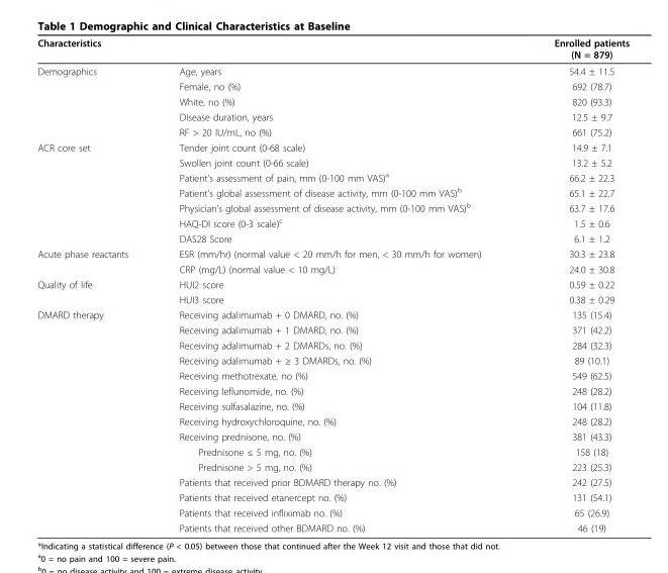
<table><thead><tr><td colspan="2">Characteristics</td><td rowspan="2">Enrolled patients (N = 879) 54.4 ± 11.5</td></tr><tr><td>Demographics</td><td>Age, years</td></tr></thead><tbody><tr><td></td><td>Female, no (%)</td><td>692 (78.7)</td></tr><tr><td></td><td>White, no (%)</td><td>820 (93.3)</td></tr><tr><td></td><td>Disease duration, years</td><td>12.5 ± 9.7</td></tr><tr><td></td><td>RF &gt; 20 IU/mL, no (%)</td><td>661 (75.2)</td></tr><tr><td rowspan="7">ACR core set</td><td>Tender joint count (0-68 scale)</td><td>14.9 ± 7.1</td></tr><tr><td>Swollen joint count (0-66 scale)</td><td>13.2 ± 5.2</td></tr><tr><td>Patient’s assessment of pain, mm (0-100 mm VAS)<sup>a</sup></td><td>66.2 ± 22.3</td></tr><tr><td>Patient’s global assessment of disease activity, mm (0-100 mm VAS)<sup>b</sup></td><td>65.1 ± 22.7</td></tr><tr><td>Physician’s global assessment of disease activity, mm (0-100 mm VAS)<sup>b</sup></td><td>63.7 ± 17.6</td></tr><tr><td>HAQ-DI score (0-3 scale)<sup>c</sup></td><td>1.5 ± 0.6</td></tr><tr><td>DAS28 Score</td><td>6.1 ± 1.2</td></tr><tr><td rowspan="2">Acute phase reactants</td><td>ESR (mm/hr) (normal value &lt; 20 mm/h for men, &lt; 30 mm/h for women)</td><td>30.3 ± 23.8</td></tr><tr><td>CRP (mg/L) (normal value &lt; 10 mg/L)</td><td>24.0 ± 30.8</td></tr><tr><td rowspan="2">Quality of life</td><td>HUI2 score</td><td>0.59 ± 0.22</td></tr><tr><td>HUI3 score</td><td>0.38 ± 0.29</td></tr><tr><td rowspan="15">DMARD therapy</td><td>Receiving adalimumab + 0 DMARD, no. (%)</td><td>135 (15.4)</td></tr><tr><td>Receiving adalimumab + 1 DMARD, no. (%)</td><td>371 (42.2)</td></tr><tr><td>Receiving adalimumab + 2 DMARDs, no. (%)</td><td>284 (32.3)</td></tr><tr><td>Receiving adalimumab + ≥ 3 DMARDs, no. (%)</td><td>89 (10.1)</td></tr><tr><td>Receiving methotrexate, no (%)</td><td>549 (62.5)</td></tr><tr><td>Receiving leflunomide, no. (%)</td><td>248 (28.2)</td></tr><tr><td>Receiving sulfasalazine, no. (%)</td><td>104 (11.8)</td></tr><tr><td>Receiving hydroxychloroquine, no. (%)</td><td>248 (28.2)</td></tr><tr><td>Receiving prednisone, no. (%)</td><td>381 (43.3)</td></tr><tr><td>Prednisone ≤ 5 mg, no. (%)</td><td>158 (18)</td></tr><tr><td>Prednisone &gt; 5 mg, no. (%)</td><td>223 (25.3)</td></tr><tr><td>Patients that received prior BDMARD therapy no. (%)</td><td>242 (27.5)</td></tr><tr><td>Patients that received etanercept no. (%)</td><td>131 (54.1)</td></tr><tr><td>Patients that received infliximab no. (%)</td><td>65 (26.9)</td></tr><tr><td>Patients that received other BDMARD no. (%)</td><td>46 (19)</td></tr></tbody></table>